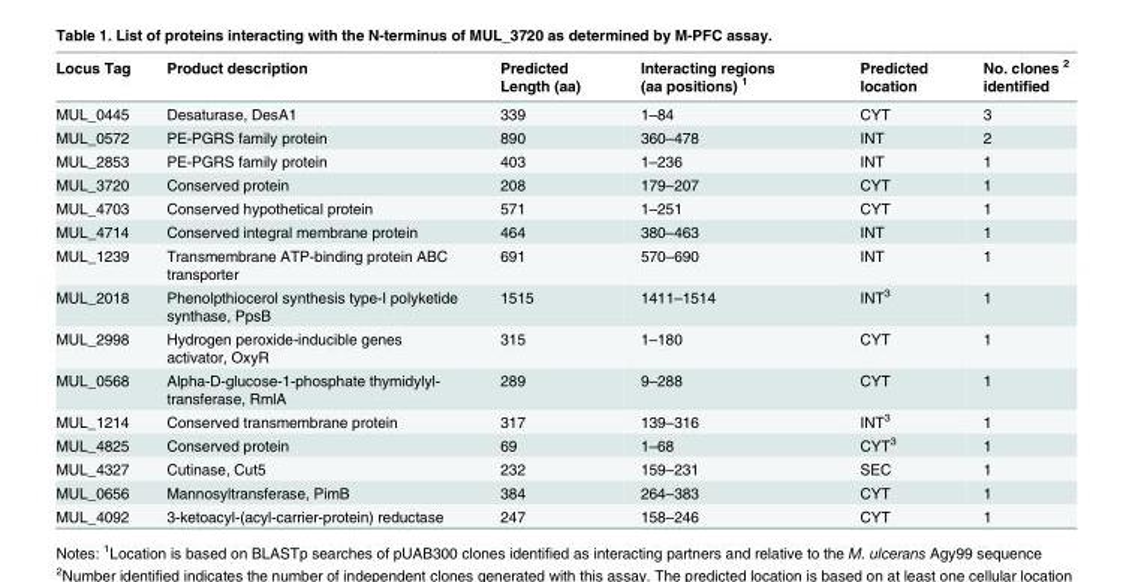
<table><thead><tr><td>Locus Tag</td><td>Product description</td><td>Predicted Length (aa)</td><td>Interacting regions (aa positions) <sup>1</sup></td><td>Predicted location</td><td>No. clones <sup>2</sup> identified</td></tr></thead><tbody><tr><td>MUL_0445</td><td>Desaturase, DesA1</td><td>339</td><td>1–84</td><td>CYT</td><td>3</td></tr><tr><td>MUL_0572</td><td>PE-PGRS family protein</td><td>890</td><td>360–478</td><td>INT</td><td>2</td></tr><tr><td>MUL_2853</td><td>PE-PGRS family protein</td><td>403</td><td>1–236</td><td>INT</td><td>1</td></tr><tr><td>MUL_3720</td><td>Conserved protein</td><td>208</td><td>179–207</td><td>CYT</td><td>1</td></tr><tr><td>MUL_4703</td><td>Conserved hypothetical protein</td><td>571</td><td>1–251</td><td>CYT</td><td>1</td></tr><tr><td>MUL_4714</td><td>Conserved integral membrane protein</td><td>464</td><td>380–463</td><td>INT</td><td>1</td></tr><tr><td>MUL_1239</td><td>Transmembrane ATP-binding protein ABC transporter</td><td>691</td><td>570–690</td><td>INT</td><td>1</td></tr><tr><td>MUL_2018</td><td>Phenolpthiocerol synthesis type-I polyketide synthase, PpsB</td><td>1515</td><td>1411–1514</td><td>INT<sup>3</sup></td><td>1</td></tr><tr><td>MUL_2998</td><td>Hydrogen peroxide-inducible genes activator, OxyR</td><td>315</td><td>1–180</td><td>CYT</td><td>1</td></tr><tr><td>MUL_0568</td><td>Alpha-D-glucose-1-phosphate thymidylyl- transferase, RmlA</td><td>289</td><td>9–288</td><td>CYT</td><td>1</td></tr><tr><td>MUL_1214</td><td>Conserved transmembrane protein</td><td>317</td><td>139–316</td><td>INT<sup>3</sup></td><td>1</td></tr><tr><td>MUL_4825</td><td>Conserved protein</td><td>69</td><td>1–68</td><td>CYT<sup>3</sup></td><td>1</td></tr><tr><td>MUL_4327</td><td>Cutinase, Cut5</td><td>232</td><td>159–231</td><td>SEC</td><td>1</td></tr><tr><td>MUL_0656</td><td>Mannosyltransferase, PimB</td><td>384</td><td>264–383</td><td>CYT</td><td>1</td></tr><tr><td>MUL_4092</td><td>3-ketoacyl-(acyl-carrier-protein) reductase</td><td>247</td><td>158–246</td><td>CYT</td><td>1</td></tr></tbody></table>